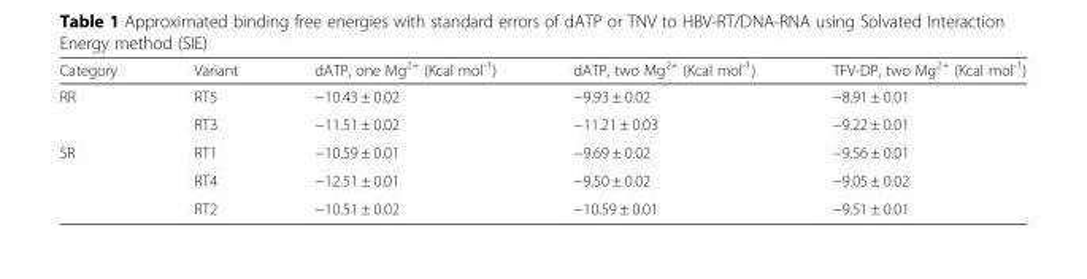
<table><thead><tr><td>Category</td><td>Variant</td><td>dATP, one Mg<sup>2+</sup> (Kcal mol<sup>-1</sup>)</td><td>dATP, two Mg<sup>2+</sup> (Kcal mol<sup>-1</sup>)</td><td>TFV-DP, two Mg<sup>2+</sup> (Kcal mol<sup>-1</sup>)</td></tr></thead><tbody><tr><td rowspan="2">RR</td><td>RT5</td><td>−10.43 ± 0.02</td><td>−9.93 ± 0.02</td><td>−8.91 ± 0.01</td></tr><tr><td>RT3</td><td>−11.51 ± 0.02</td><td>−11.21 ± 0.03</td><td>−9.22 ± 0.01</td></tr><tr><td rowspan="3">SR</td><td>RT1</td><td>−10.59 ± 0.01</td><td>−9.69 ± 0.02</td><td>−9.56 ± 0.01</td></tr><tr><td>RT4</td><td>−12.51 ± 0.01</td><td>−9.50 ± 0.02</td><td>−9.05 ± 0.02</td></tr><tr><td>RT2</td><td>−10.51 ± 0.02</td><td>−10.59 ± 0.01</td><td>−9.51 ± 0.01</td></tr></tbody></table>